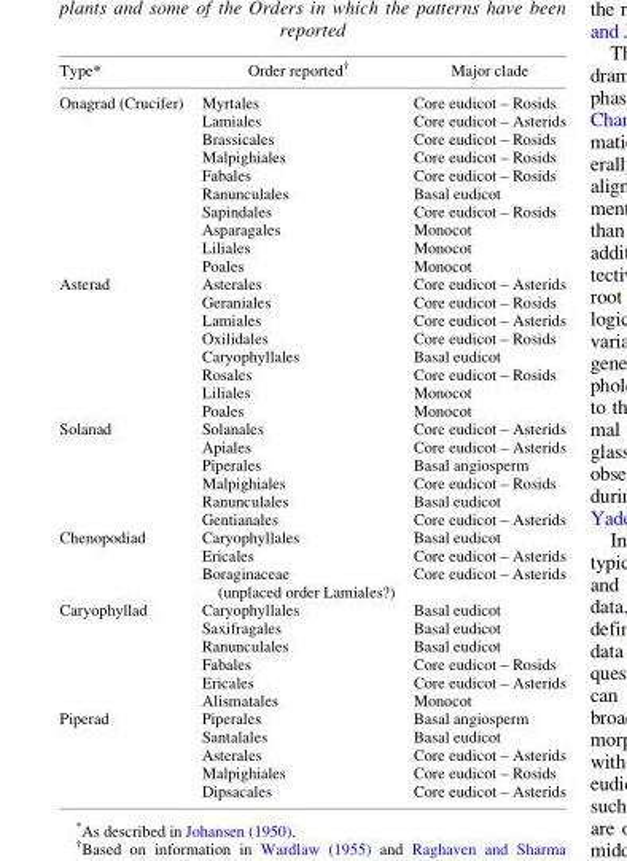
<table><thead><tr><td>Type*</td><td>Order reported<sup>†</sup></td><td>Major clade</td></tr></thead><tbody><tr><td rowspan="10">Onagrad (Crucifer)</td><td>Myrtales</td><td>Core eudicot – Rosids</td></tr><tr><td>Lamiales</td><td>Core eudicot – Asterids</td></tr><tr><td>Brassicales</td><td>Core eudicot – Rosids</td></tr><tr><td>Malpighiales</td><td>Core eudicot – Rosids</td></tr><tr><td>Fabales</td><td>Core eudicot – Rosids</td></tr><tr><td>Ranunculales</td><td>Basal eudicot</td></tr><tr><td>Sapindales</td><td>Core eudicot – Rosids</td></tr><tr><td>Asparagales</td><td>Monocot</td></tr><tr><td>Liliales</td><td>Monocot</td></tr><tr><td>Poales</td><td>Monocot</td></tr><tr><td rowspan="8">Asterad</td><td>Asterales</td><td>Core eudicot – Asterids</td></tr><tr><td>Geraniales</td><td>Core eudicot – Rosids</td></tr><tr><td>Lamiales</td><td>Core eudicot – Asterids</td></tr><tr><td>Oxilidales</td><td>Core eudicot – Rosids</td></tr><tr><td>Caryophyllales</td><td>Basal eudicot</td></tr><tr><td>Rosales</td><td>Core eudicot – Rosids</td></tr><tr><td>Liliales</td><td>Monocot</td></tr><tr><td>Poales</td><td>Monocot</td></tr><tr><td rowspan="6">Solanad</td><td>Solanales</td><td>Core eudicot – Asterids</td></tr><tr><td>Apiales</td><td>Core eudicot – Asterids</td></tr><tr><td>Piperales</td><td>Basal angiosperm</td></tr><tr><td>Malpighiales</td><td>Core eudicot – Rosids</td></tr><tr><td>Ranunculales</td><td>Basal eudicot</td></tr><tr><td>Gentianales</td><td>Core eudicot – Asterids</td></tr><tr><td rowspan="3">Chenopodiad</td><td>Caryophyllales</td><td>Basal eudicot</td></tr><tr><td>Ericales</td><td>Core eudicot – Asterids</td></tr><tr><td>Boraginaceae (unplaced order Lamiales?)</td><td>Core eudicot – Asterids</td></tr><tr><td rowspan="6">Caryophyllad</td><td>Caryophyllales</td><td>Basal eudicot</td></tr><tr><td>Saxifragales</td><td>Basal eudicot</td></tr><tr><td>Ranunculales</td><td>Basal eudicot</td></tr><tr><td>Fabales</td><td>Core eudicot – Rosids</td></tr><tr><td>Ericales</td><td>Core eudicot – Asterids</td></tr><tr><td>Alismatales</td><td>Monocot</td></tr><tr><td rowspan="5">Piperad</td><td>Piperales</td><td>Basal angiosperm</td></tr><tr><td>Santalales</td><td>Basal eudicot</td></tr><tr><td>Asterales</td><td>Core eudicot – Asterids</td></tr><tr><td>Malpighiales</td><td>Core eudicot – Rosids</td></tr><tr><td>Dipsacales</td><td>Core eudicot – Asterids</td></tr></tbody></table>